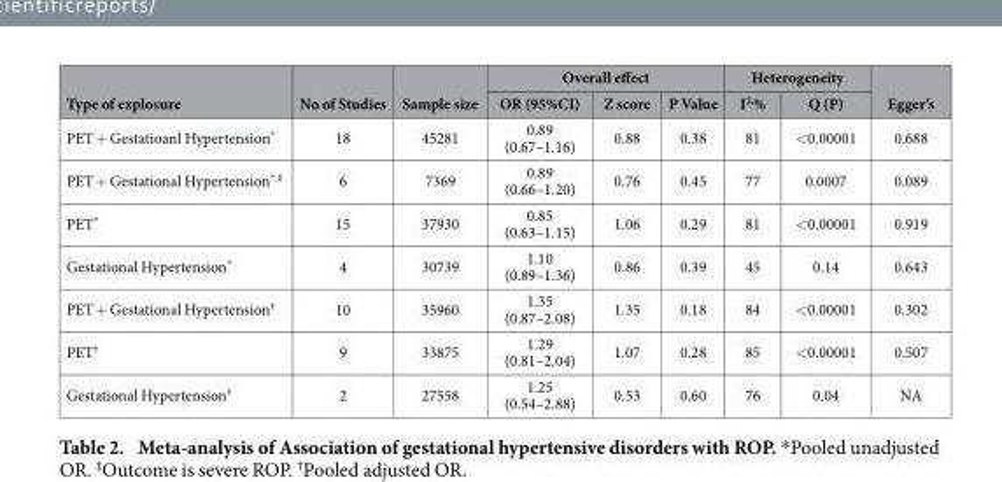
<table><thead><tr><td rowspan="2">Type of explosure</td><td rowspan="2">No of Studies</td><td rowspan="2">Sample size</td><td colspan="3">Overall effect</td><td colspan="2">Heterogeneity</td><td rowspan="2">Egger’s</td></tr><tr><td>OR (95%CI)</td><td>Z score</td><td>P Value</td><td>I<sup>2,</sup>%</td><td>Q (P)</td></tr></thead><tbody><tr><td>PET + Gestatioanl Hypertension*</td><td>18</td><td>45281</td><td>0.89 (0.67–1.16)</td><td>0.88</td><td>0.38</td><td>81</td><td>&lt; 0.00001</td><td>0.688</td></tr><tr><td>PET + Gestational Hypertension<sup>*,</sup>‡</td><td>6</td><td>7369</td><td>0.89 (0.66–1.20)</td><td>0.76</td><td>0.45</td><td>77</td><td>0.0007</td><td>0.089</td></tr><tr><td>PET*</td><td>15</td><td>37930</td><td>0.85 (0.63–1.15)</td><td>1.06</td><td>0.29</td><td>81</td><td>&lt; 0.00001</td><td>0.919</td></tr><tr><td>Gestational Hypertension*</td><td>4</td><td>30739</td><td>1.10 (0.89–1.36)</td><td>0.86</td><td>0.39</td><td>45</td><td>0.14</td><td>0.643</td></tr><tr><td>PET + Gestational Hypertension†</td><td>10</td><td>35960</td><td>1.35 (0.87–2.08)</td><td>1.35</td><td>0.18</td><td>84</td><td>&lt; 0.00001</td><td>0.302</td></tr><tr><td>PET†</td><td>9</td><td>33875</td><td>1.29 (0.81–2.04)</td><td>1.07</td><td>0.28</td><td>85</td><td>&lt; 0.00001</td><td>0.507</td></tr><tr><td>Gestational Hypertension†</td><td>2</td><td>27558</td><td>1.25 (0.54–2.88)</td><td>0.53</td><td>0.60</td><td>76</td><td>0.04</td><td>NA</td></tr></tbody></table>